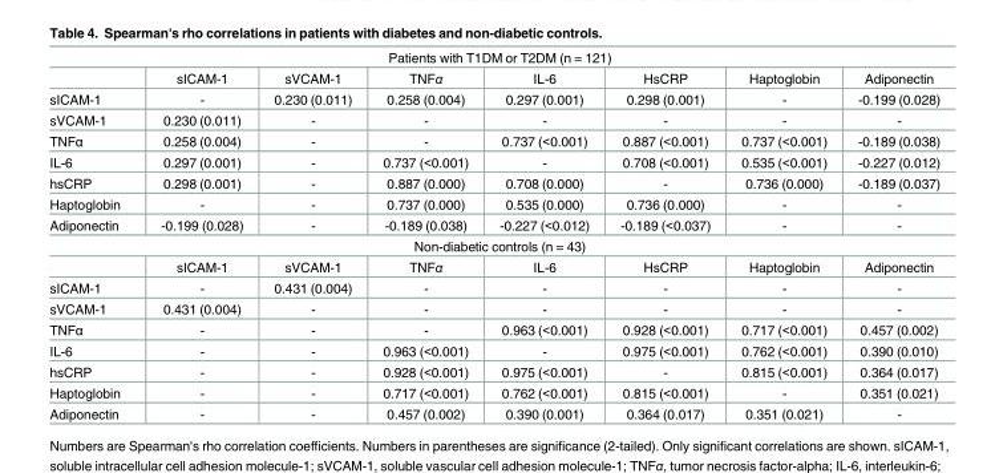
<table><tbody><tr><td colspan="8">Patients with T1DM or T2DM (n = 121)</td></tr><tr><td></td><td>sICAM-1</td><td>sVCAM-1</td><td>TNFα</td><td>IL-6</td><td>HsCRP</td><td>Haptoglobin</td><td>Adiponectin</td></tr><tr><td>sICAM-1</td><td>-</td><td>0.230 (0.011)</td><td>0.258 (0.004)</td><td>0.297 (0.001)</td><td>0.298 (0.001)</td><td>-</td><td>-0.199 (0.028)</td></tr><tr><td>sVCAM-1</td><td>0.230 (0.011)</td><td>-</td><td>-</td><td>-</td><td>-</td><td>-</td><td>-</td></tr><tr><td>TNFα</td><td>0.258 (0.004)</td><td>-</td><td>-</td><td>0.737 (&lt;0.001)</td><td>0.887 (&lt;0.001)</td><td>0.737 (&lt;0.001)</td><td>-0.189 (0.038)</td></tr><tr><td>IL-6</td><td>0.297 (0.001)</td><td>-</td><td>0.737 (&lt;0.001)</td><td>-</td><td>0.708 (&lt;0.001)</td><td>0.535 (&lt;0.001)</td><td>-0.227 (0.012)</td></tr><tr><td>hsCRP</td><td>0.298 (0.001)</td><td>-</td><td>0.887 (0.000)</td><td>0.708 (0.000)</td><td>-</td><td>0.736 (0.000)</td><td>-0.189 (0.037)</td></tr><tr><td>Haptoglobin</td><td>-</td><td>-</td><td>0.737 (0.000)</td><td>0.535 (0.000)</td><td>0.736 (0.000)</td><td>-</td><td>-</td></tr><tr><td>Adiponectin</td><td>-0.199 (0.028)</td><td>-</td><td>-0.189 (0.038)</td><td>-0.227 (&lt;0.012)</td><td>-0.189 (&lt;0.037)</td><td>-</td><td>-</td></tr><tr><td colspan="8">Non-diabetic controls (n = 43)</td></tr><tr><td></td><td>sICAM-1</td><td>sVCAM-1</td><td>TNFα</td><td>IL-6</td><td>HsCRP</td><td>Haptoglobin</td><td>Adiponectin</td></tr><tr><td>sICAM-1</td><td>-</td><td>0.431 (0.004)</td><td>-</td><td>-</td><td>-</td><td>-</td><td>-</td></tr><tr><td>sVCAM-1</td><td>0.431 (0.004)</td><td>-</td><td>-</td><td>-</td><td>-</td><td>-</td><td>-</td></tr><tr><td>TNFα</td><td>-</td><td>-</td><td>-</td><td>0.963 (&lt;0.001)</td><td>0.928 (&lt;0.001)</td><td>0.717 (&lt;0.001)</td><td>0.457 (0.002)</td></tr><tr><td>IL-6</td><td>-</td><td>-</td><td>0.963 (&lt;0.001)</td><td>-</td><td>0.975 (&lt;0.001)</td><td>0.762 (&lt;0.001)</td><td>0.390 (0.010)</td></tr><tr><td>hsCRP</td><td>-</td><td>-</td><td>0.928 (&lt;0.001)</td><td>0.975 (&lt;0.001)</td><td>-</td><td>0.815 (&lt;0.001)</td><td>0.364 (0.017)</td></tr><tr><td>Haptoglobin</td><td>-</td><td>-</td><td>0.717 (&lt;0.001)</td><td>0.762 (&lt;0.001)</td><td>0.815 (&lt;0.001)</td><td>-</td><td>0.351 (0.021)</td></tr><tr><td>Adiponectin</td><td>-</td><td>-</td><td>0.457 (0.002)</td><td>0.390 (0.001)</td><td>0.364 (0.017)</td><td>0.351 (0.021)</td><td>-</td></tr></tbody></table>